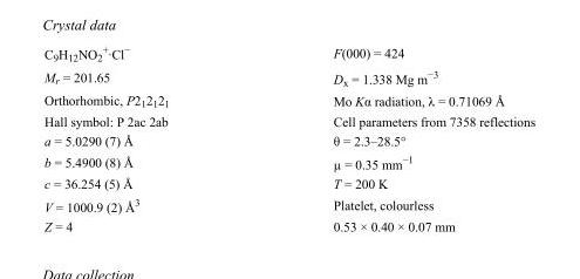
<table><tbody><tr><td>C<sub>9</sub>H<sub>12</sub>NO<sub>2</sub> <sup>+</sup>·Cl<sup>−</sup></td><td>F(000) = 424</td></tr><tr><td>M<sub>r</sub> = 201.65</td><td>D<sub>x</sub> = 1.338 Mg m<sup>−3</sup></td></tr><tr><td>Orthorhombic, P2<sub>1</sub>2<sub>1</sub>2<sub>1</sub></td><td>Mo Kα radiation, λ = 0.71069 Å</td></tr><tr><td>Hall symbol: P 2ac 2ab</td><td>Cell parameters from 7358 reflections</td></tr><tr><td>a = 5.0290 (7) Å</td><td>θ = 2.3–28.5°</td></tr><tr><td>b = 5.4900 (8) Å</td><td>µ = 0.35 mm<sup>−1</sup></td></tr><tr><td>c = 36.254 (5) Å</td><td>T = 200 K</td></tr><tr><td>V = 1000.9 (2) Å<sup>3</sup></td><td>Platelet, colourless</td></tr><tr><td>Z = 4</td><td>0.53 × 0.40 × 0.07 mm</td></tr></tbody></table>